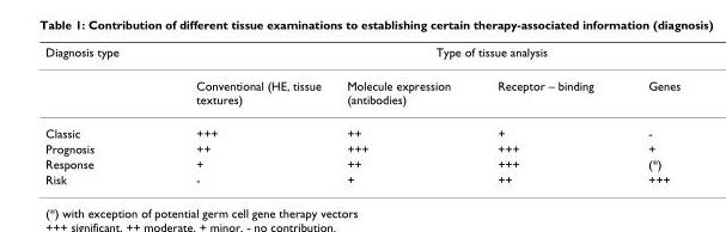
<table><thead><tr><td rowspan="2">Diagnosis type</td><td colspan="4">Type of tissue analysis</td></tr><tr><td>Conventional (HE, tissue textures)</td><td>Molecule expression (antibodies)</td><td>Receptor – binding</td><td>Genes</td></tr></thead><tbody><tr><td>Classic</td><td>+++</td><td>++</td><td>+</td><td>-</td></tr><tr><td>Prognosis</td><td>++</td><td>+++</td><td>+++</td><td>+</td></tr><tr><td>Response</td><td>+</td><td>++</td><td>+++</td><td>(*)</td></tr><tr><td>Risk</td><td>-</td><td>+</td><td>++</td><td>+++</td></tr></tbody></table>